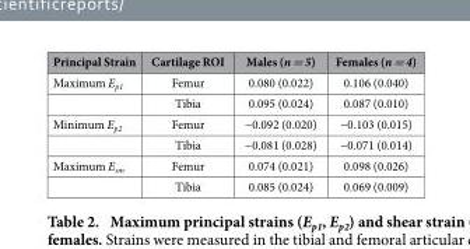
<table><thead><tr><td>Principal Strain</td><td>Cartilage ROI</td><td>Males (n = 5)</td><td>Females (n = 4)</td></tr></thead><tbody><tr><td rowspan="2">Maximum E<sub>p1</sub></td><td>Femur</td><td>0.080 (0.022)</td><td>0.106 (0.040)</td></tr><tr><td>Tibia</td><td>0.095 (0.024)</td><td>0.087 (0.010)</td></tr><tr><td rowspan="2">Minimum E<sub>p2</sub></td><td>Femur</td><td>−0.092 (0.020)</td><td>−0.103 (0.015)</td></tr><tr><td>Tibia</td><td>−0.081 (0.028)</td><td>−0.071 (0.014)</td></tr><tr><td rowspan="2">Maximum E<sub>sm</sub></td><td>Femur</td><td>0.074 (0.021)</td><td>0.098 (0.026)</td></tr><tr><td>Tibia</td><td>0.085 (0.024)</td><td>0.069 (0.009)</td></tr></tbody></table>